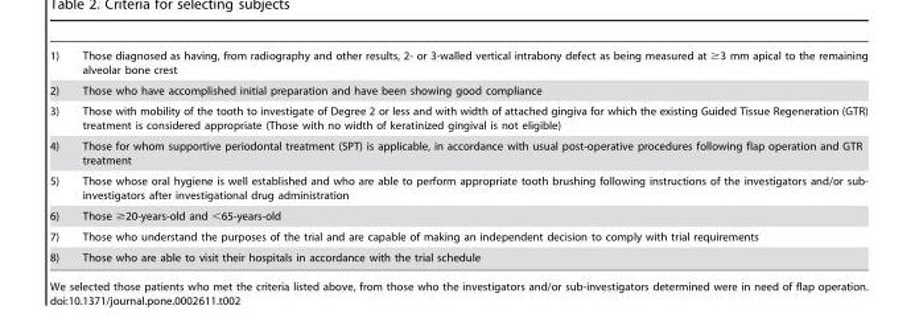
<table><tbody><tr><td>1)</td><td>Those diagnosed as having, from radiography and other results, 2- or 3-walled vertical intrabony defect as being measured at ≥3 mm apical to the remaining alveolar bone crest</td></tr><tr><td>2)</td><td>Those who have accomplished initial preparation and have been showing good compliance</td></tr><tr><td>3)</td><td>Those with mobility of the tooth to investigate of Degree 2 or less and with width of attached gingiva for which the existing Guided Tissue Regeneration (GTR) treatment is considered appropriate (Those with no width of keratinized gingival is not eligible)</td></tr><tr><td>4)</td><td>Those for whom supportive periodontal treatment (SPT) is applicable, in accordance with usual post-operative procedures following flap operation and GTR treatment</td></tr><tr><td>5)</td><td>Those whose oral hygiene is well established and who are able to perform appropriate tooth brushing following instructions of the investigators and/or sub- investigators after investigational drug administration</td></tr><tr><td>6)</td><td>Those ≥20-years-old and &lt;65-years-old</td></tr><tr><td>7)</td><td>Those who understand the purposes of the trial and are capable of making an independent decision to comply with trial requirements</td></tr><tr><td>8)</td><td>Those who are able to visit their hospitals in accordance with the trial schedule</td></tr></tbody></table>